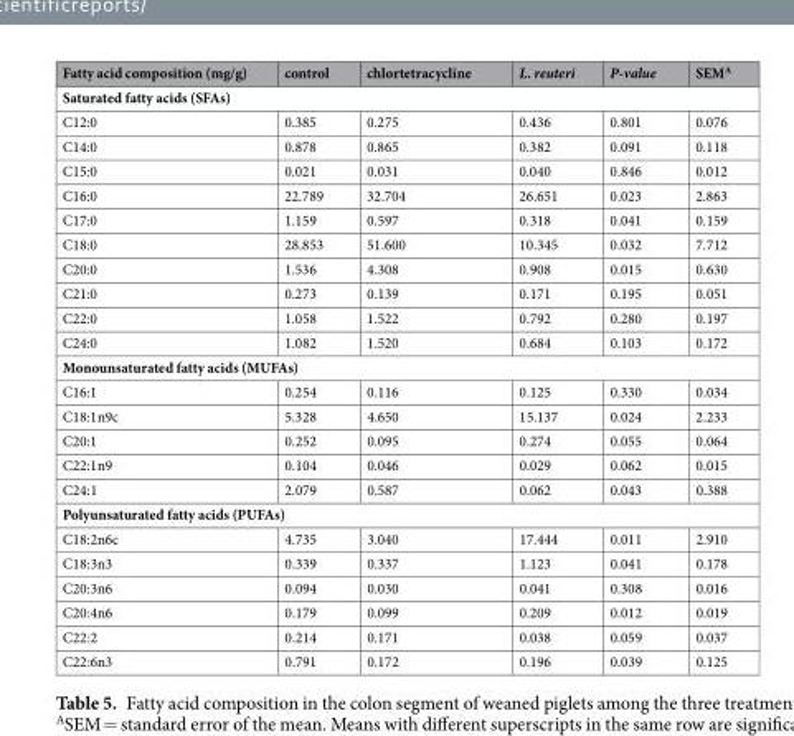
<table><thead><tr><td>Fatty acid composition (mg/g)</td><td>control</td><td>chlortetracycline</td><td>L. reuteri</td><td>P-value</td><td>SEM<sup>A</sup></td></tr></thead><tbody><tr><td colspan="6">Saturated fatty acids (SFAs)</td></tr><tr><td>C12:0</td><td>0.385</td><td>0.275</td><td>0.436</td><td>0.801</td><td>0.076</td></tr><tr><td>C14:0</td><td>0.878</td><td>0.865</td><td>0.382</td><td>0.091</td><td>0.118</td></tr><tr><td>C15:0</td><td>0.021</td><td>0.031</td><td>0.040</td><td>0.846</td><td>0.012</td></tr><tr><td>C16:0</td><td>22.789</td><td>32.704</td><td>26.651</td><td>0.023</td><td>2.863</td></tr><tr><td>C17:0</td><td>1.159</td><td>0.597</td><td>0.318</td><td>0.041</td><td>0.159</td></tr><tr><td>C18:0</td><td>28.853</td><td>51.600</td><td>10.345</td><td>0.032</td><td>7.712</td></tr><tr><td>C20:0</td><td>1.536</td><td>4.308</td><td>0.908</td><td>0.015</td><td>0.630</td></tr><tr><td>C21:0</td><td>0.273</td><td>0.139</td><td>0.171</td><td>0.195</td><td>0.051</td></tr><tr><td>C22:0</td><td>1.058</td><td>1.522</td><td>0.792</td><td>0.280</td><td>0.197</td></tr><tr><td>C24:0</td><td>1.082</td><td>1.520</td><td>0.684</td><td>0.103</td><td>0.172</td></tr><tr><td colspan="6">Monounsaturated fatty acids (MUFAs)</td></tr><tr><td>C16:1</td><td>0.254</td><td>0.116</td><td>0.125</td><td>0.330</td><td>0.034</td></tr><tr><td>C18:1n9c</td><td>5.328</td><td>4.650</td><td>15.137</td><td>0.024</td><td>2.233</td></tr><tr><td>C20:1</td><td>0.252</td><td>0.095</td><td>0.274</td><td>0.055</td><td>0.064</td></tr><tr><td>C22:1n9</td><td>0.104</td><td>0.046</td><td>0.029</td><td>0.062</td><td>0.015</td></tr><tr><td>C24:1</td><td>2.079</td><td>0.587</td><td>0.062</td><td>0.043</td><td>0.388</td></tr><tr><td colspan="6">Polyunsaturated fatty acids (PUFAs)</td></tr><tr><td>C18:2n6c</td><td>4.735</td><td>3.040</td><td>17.444</td><td>0.011</td><td>2.910</td></tr><tr><td>C18:3n3</td><td>0.339</td><td>0.337</td><td>1.123</td><td>0.041</td><td>0.178</td></tr><tr><td>C20:3n6</td><td>0.094</td><td>0.030</td><td>0.041</td><td>0.308</td><td>0.016</td></tr><tr><td>C20:4n6</td><td>0.179</td><td>0.099</td><td>0.209</td><td>0.012</td><td>0.019</td></tr><tr><td>C22:2</td><td>0.214</td><td>0.171</td><td>0.038</td><td>0.059</td><td>0.037</td></tr><tr><td>C22:6n3</td><td>0.791</td><td>0.172</td><td>0.196</td><td>0.039</td><td>0.125</td></tr></tbody></table>